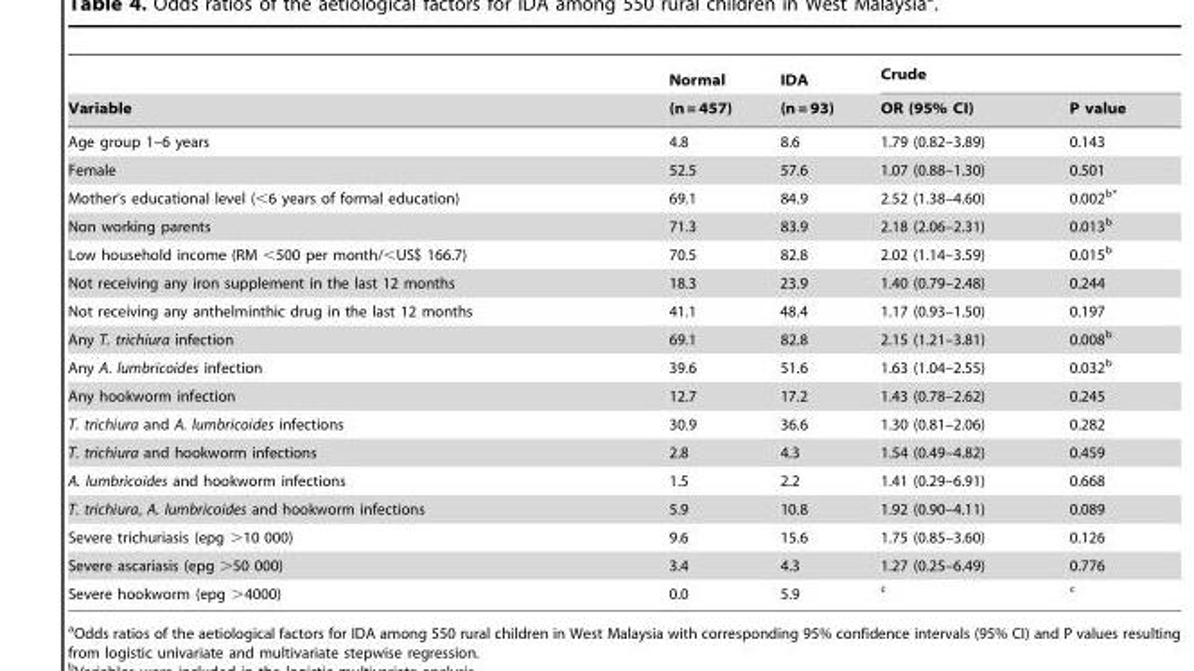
<table><thead><tr><td rowspan="2">Variable</td><td rowspan="2">Normal (n = 457)</td><td rowspan="2">IDA (n = 93)</td><td colspan="2">Crude</td></tr><tr><td>OR (95% CI)</td><td>P value</td></tr></thead><tbody><tr><td>Age group 1–6 years</td><td>4.8</td><td>8.6</td><td>1.79 (0.82–3.89)</td><td>0.143</td></tr><tr><td>Female</td><td>52.5</td><td>57.6</td><td>1.07 (0.88–1.30)</td><td>0.501</td></tr><tr><td>Mother’s educational level (&lt;6 years of formal education)</td><td>69.1</td><td>84.9</td><td>2.52 (1.38–4.60)</td><td>0.002<sup>b</sup>*</td></tr><tr><td>Non working parents</td><td>71.3</td><td>83.9</td><td>2.18 (2.06–2.31)</td><td>0.013<sup>b</sup></td></tr><tr><td>Low household income (RM &lt;500 per month/&lt;US$ 166.7)</td><td>70.5</td><td>82.8</td><td>2.02 (1.14–3.59)</td><td>0.015<sup>b</sup></td></tr><tr><td>Not receiving any iron supplement in the last 12 months</td><td>18.3</td><td>23.9</td><td>1.40 (0.79–2.48)</td><td>0.244</td></tr><tr><td>Not receiving any anthelminthic drug in the last 12 months</td><td>41.1</td><td>48.4</td><td>1.17 (0.93–1.50)</td><td>0.197</td></tr><tr><td>Any T. trichiura infection</td><td>69.1</td><td>82.8</td><td>2.15 (1.21–3.81)</td><td>0.008<sup>b</sup></td></tr><tr><td>Any A. lumbricoides infection</td><td>39.6</td><td>51.6</td><td>1.63 (1.04–2.55)</td><td>0.032<sup>b</sup></td></tr><tr><td>Any hookworm infection</td><td>12.7</td><td>17.2</td><td>1.43 (0.78–2.62)</td><td>0.245</td></tr><tr><td>T. trichiura and A. lumbricoides infections</td><td>30.9</td><td>36.6</td><td>1.30 (0.81–2.06)</td><td>0.282</td></tr><tr><td>T. trichiura and hookworm infections</td><td>2.8</td><td>4.3</td><td>1.54 (0.49–4.82)</td><td>0.459</td></tr><tr><td>A. lumbricoides and hookworm infections</td><td>1.5</td><td>2.2</td><td>1.41 (0.29–6.91)</td><td>0.668</td></tr><tr><td>T. trichiura, A. lumbricoides and hookworm infections</td><td>5.9</td><td>10.8</td><td>1.92 (0.90–4.11)</td><td>0.089</td></tr><tr><td>Severe trichuriasis (epg &gt;10 000)</td><td>9.6</td><td>15.6</td><td>1.75 (0.85–3.60)</td><td>0.126</td></tr><tr><td>Severe ascariasis (epg &gt;50 000)</td><td>3.4</td><td>4.3</td><td>1.27 (0.25–6.49)</td><td>0.776</td></tr><tr><td>Severe hookworm (epg &gt;4000)</td><td>0.0</td><td>5.9</td><td>c</td><td>c</td></tr></tbody></table>